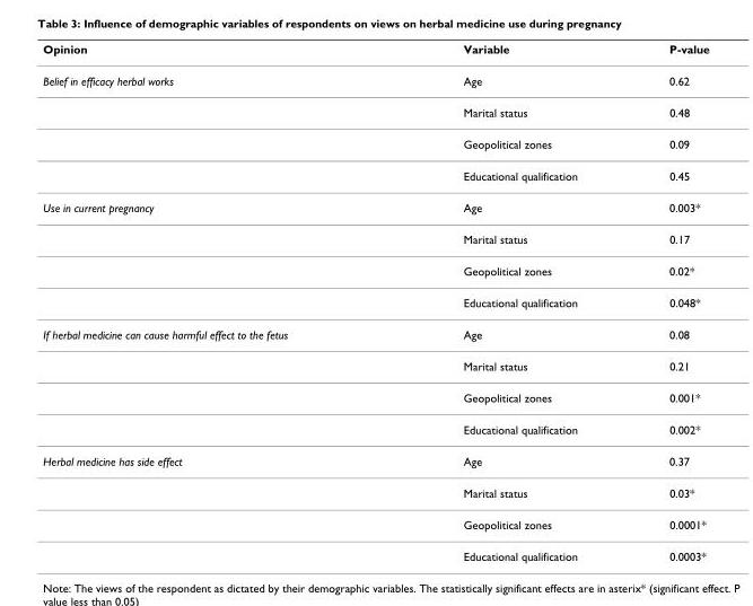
<table><thead><tr><td>Opinion</td><td>Variable</td><td>P-value</td></tr></thead><tbody><tr><td rowspan="4">Belief in efficacy herbal works</td><td>Age</td><td>0.62</td></tr><tr><td>Marital status</td><td>0.48</td></tr><tr><td>Geopolitical zones</td><td>0.09</td></tr><tr><td>Educational qualification</td><td>0.45</td></tr><tr><td rowspan="4">Use in current pregnancy</td><td>Age</td><td>0.003*</td></tr><tr><td>Marital status</td><td>0.17</td></tr><tr><td>Geopolitical zones</td><td>0.02*</td></tr><tr><td>Educational qualification</td><td>0.048*</td></tr><tr><td rowspan="4">If herbal medicine can cause harmful effect to the fetus</td><td>Age</td><td>0.08</td></tr><tr><td>Marital status</td><td>0.21</td></tr><tr><td>Geopolitical zones</td><td>0.001*</td></tr><tr><td>Educational qualification</td><td>0.002*</td></tr><tr><td rowspan="4">Herbal medicine has side effect</td><td>Age</td><td>0.37</td></tr><tr><td>Marital status</td><td>0.03*</td></tr><tr><td>Geopolitical zones</td><td>0.0001*</td></tr><tr><td>Educational qualification</td><td>0.0003*</td></tr></tbody></table>